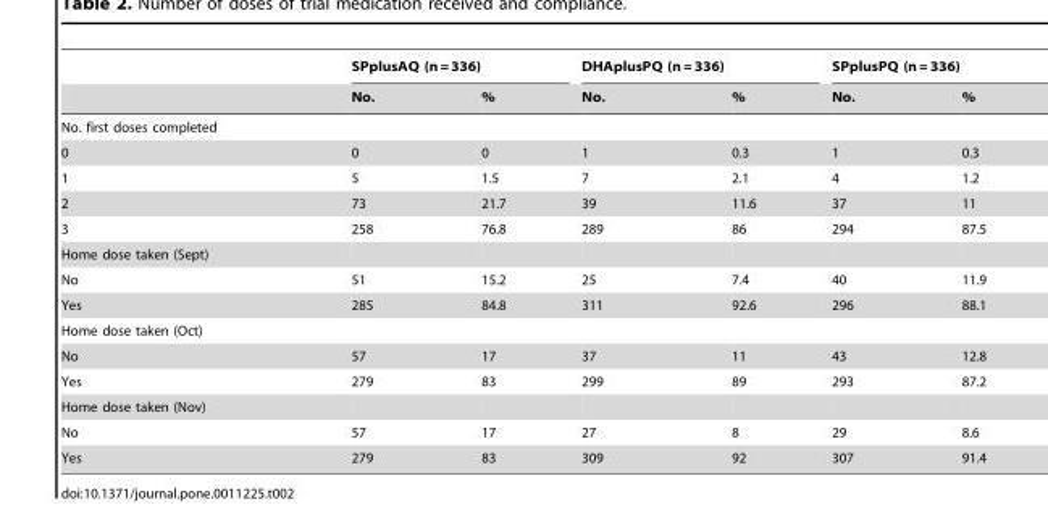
<table><thead><tr><td rowspan="2"></td><td colspan="2">SPplusAQ (n = 336)</td><td colspan="2">DHAplusPQ (n = 336)</td><td colspan="2">SPplusPQ (n = 336)</td></tr><tr><td>No.</td><td>%</td><td>No.</td><td>%</td><td>No.</td><td>%</td></tr></thead><tbody><tr><td colspan="7">No. first doses completed</td></tr><tr><td>0</td><td>0</td><td>0</td><td>1</td><td>0.3</td><td>1</td><td>0.3</td></tr><tr><td>1</td><td>5</td><td>1.5</td><td>7</td><td>2.1</td><td>4</td><td>1.2</td></tr><tr><td>2</td><td>73</td><td>21.7</td><td>39</td><td>11.6</td><td>37</td><td>11</td></tr><tr><td>3</td><td>258</td><td>76.8</td><td>289</td><td>86</td><td>294</td><td>87.5</td></tr><tr><td colspan="7">Home dose taken (Sept)</td></tr><tr><td>No</td><td>51</td><td>15.2</td><td>25</td><td>7.4</td><td>40</td><td>11.9</td></tr><tr><td>Yes</td><td>285</td><td>84.8</td><td>311</td><td>92.6</td><td>296</td><td>88.1</td></tr><tr><td colspan="7">Home dose taken (Oct)</td></tr><tr><td>No</td><td>57</td><td>17</td><td>37</td><td>11</td><td>43</td><td>12.8</td></tr><tr><td>Yes</td><td>279</td><td>83</td><td>299</td><td>89</td><td>293</td><td>87.2</td></tr><tr><td colspan="7">Home dose taken (Nov)</td></tr><tr><td>No</td><td>57</td><td>17</td><td>27</td><td>8</td><td>29</td><td>8.6</td></tr><tr><td>Yes</td><td>279</td><td>83</td><td>309</td><td>92</td><td>307</td><td>91.4</td></tr></tbody></table>